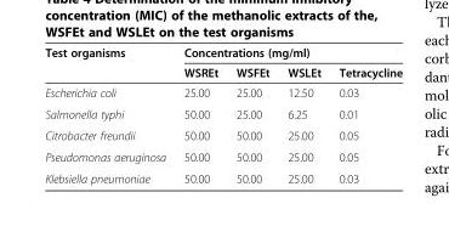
<table><thead><tr><td rowspan="2">Test organisms</td><td colspan="4">Concentrations (mg/ml)</td></tr><tr><td>WSREt</td><td>WSFEt</td><td>WSLEt</td><td>Tetracycline</td></tr></thead><tbody><tr><td>Escherichia coli</td><td>25.00</td><td>25.00</td><td>12.50</td><td>0.03</td></tr><tr><td>Salmonella typhi</td><td>50.00</td><td>25.00</td><td>6.25</td><td>0.01</td></tr><tr><td>Citrobacter freundii</td><td>50.00</td><td>50.00</td><td>25.00</td><td>0.05</td></tr><tr><td>Pseudomonas aeruginosa</td><td>50.00</td><td>50.00</td><td>25.00</td><td>0.05</td></tr><tr><td>Klebsiella pneumoniae</td><td>50.00</td><td>50.00</td><td>25.00</td><td>0.03</td></tr></tbody></table>